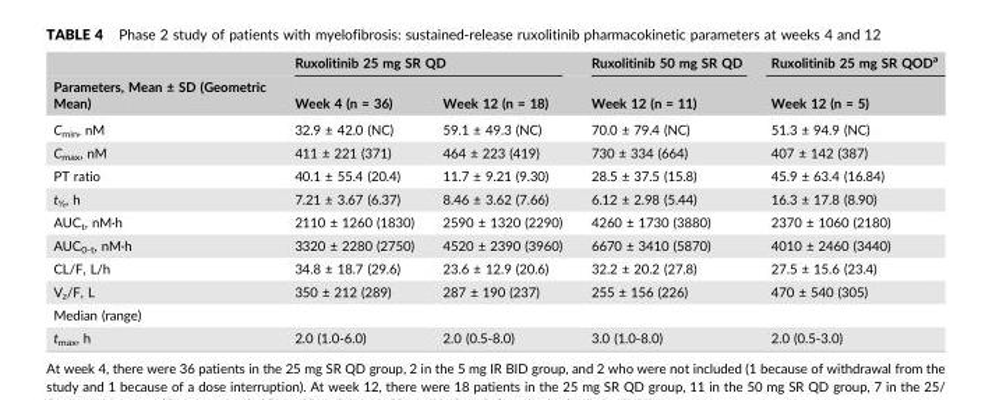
<table><thead><tr><td rowspan="2">Parameters, Mean ± SD (Geometric Mean)</td><td colspan="2">Ruxolitinib 25 mg SR QD</td><td rowspan="2">Ruxolitinib 50 mg SR QD Week 12 (n = 11)</td><td rowspan="2">Ruxolitinib 25 mg SR QOD<sup>a</sup> Week 12 (n = 5)</td></tr><tr><td>Week 4 (n = 36)</td><td>Week 12 (n = 18)</td></tr></thead><tbody><tr><td>C<sub>min</sub>, nM</td><td>32.9 ± 42.0 (NC)</td><td>59.1 ± 49.3 (NC)</td><td>70.0 ± 79.4 (NC)</td><td>51.3 ± 94.9 (NC)</td></tr><tr><td>C<sub>max</sub>, nM</td><td>411 ± 221 (371)</td><td>464 ± 223 (419)</td><td>730 ± 334 (664)</td><td>407 ± 142 (387)</td></tr><tr><td>PT ratio</td><td>40.1 ± 55.4 (20.4)</td><td>11.7 ± 9.21 (9.30)</td><td>28.5 ± 37.5 (15.8)</td><td>45.9 ± 63.4 (16.84)</td></tr><tr><td>t<sub>½</sub>, h</td><td>7.21 ± 3.67 (6.37)</td><td>8.46 ± 3.62 (7.66)</td><td>6.12 ± 2.98 (5.44)</td><td>16.3 ± 17.8 (8.90)</td></tr><tr><td>AUC<sub>t</sub>, nM·h</td><td>2110 ± 1260 (1830)</td><td>2590 ± 1320 (2290)</td><td>4260 ± 1730 (3880)</td><td>2370 ± 1060 (2180)</td></tr><tr><td>AUC<sub>0‐t</sub>, nM·h</td><td>3320 ± 2280 (2750)</td><td>4520 ± 2390 (3960)</td><td>6670 ± 3410 (5870)</td><td>4010 ± 2460 (3440)</td></tr><tr><td>CL/F, L/h</td><td>34.8 ± 18.7 (29.6)</td><td>23.6 ± 12.9 (20.6)</td><td>32.2 ± 20.2 (27.8)</td><td>27.5 ± 15.6 (23.4)</td></tr><tr><td>V<sub>z</sub>/F, L</td><td>350 ± 212 (289)</td><td>287 ± 190 (237)</td><td>255 ± 156 (226)</td><td>470 ± 540 (305)</td></tr><tr><td colspan="5">Median (range)</td></tr><tr><td>t<sub>max</sub>, h</td><td>2.0 (1.0‐6.0)</td><td>2.0 (0.5‐8.0)</td><td>3.0 (1.0‐8.0)</td><td>2.0 (0.5‐3.0)</td></tr></tbody></table>